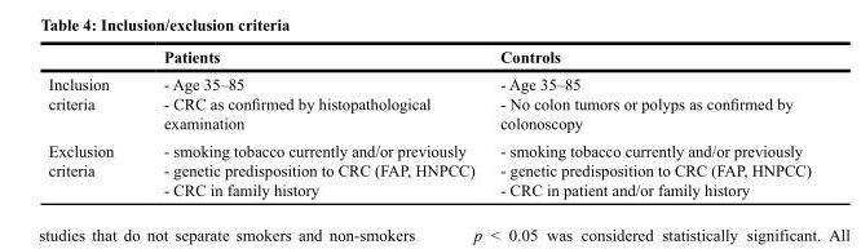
<table><thead><tr><td></td><td>Patients</td><td>Controls</td></tr></thead><tbody><tr><td>Inclusion criteria</td><td>- Age 35–85 - CRC as confirmed by histopathological examination</td><td>- Age 35–85 - No colon tumors or polyps as confirmed by colonoscopy</td></tr><tr><td>Exclusion criteria</td><td>- smoking tobacco currently and/or previously - genetic predisposition to CRC (FAP, HNPCC) - CRC in family history</td><td>- smoking tobacco currently and/or previously - genetic predisposition to CRC (FAP, HNPCC) - CRC in patient and/or family history</td></tr></tbody></table>